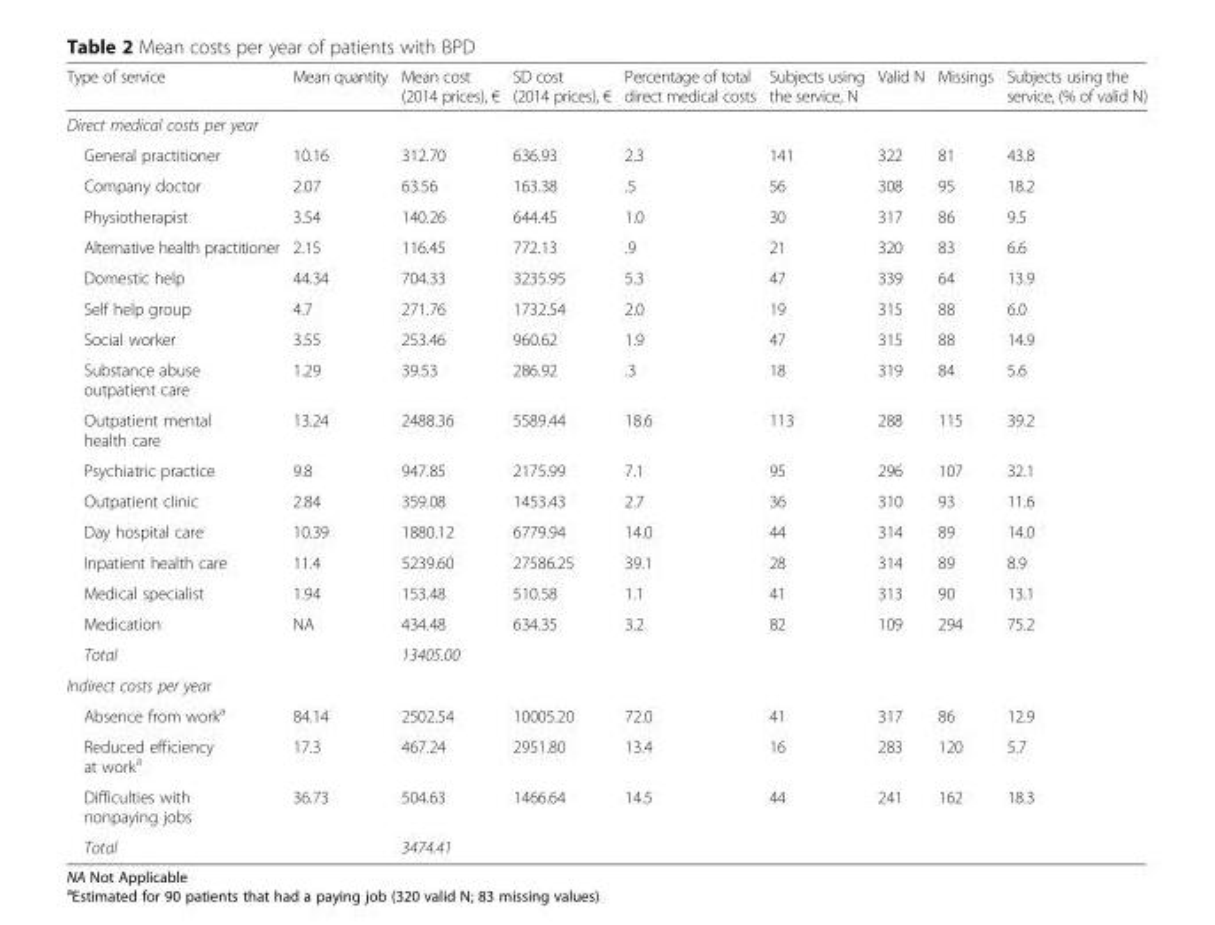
<table><thead><tr><td>Type of service</td><td>Mean quantity</td><td>Mean cost (2014 prices), €</td><td>SD cost (2014 prices), €</td><td>Percentage of total direct medical costs</td><td>Subjects using the service, N</td><td>Valid N</td><td>Missings</td><td>Subjects using the service, (% of valid N)</td></tr></thead><tbody><tr><td colspan="9">Direct medical costs per year</td></tr><tr><td>General practitioner</td><td>10.16</td><td>312.70</td><td>636.93</td><td>2.3</td><td>141</td><td>322</td><td>81</td><td>43.8</td></tr><tr><td>Company doctor</td><td>2.07</td><td>63.56</td><td>163.38</td><td>.5</td><td>56</td><td>308</td><td>95</td><td>18.2</td></tr><tr><td>Physiotherapist</td><td>3.54</td><td>140.26</td><td>644.45</td><td>1.0</td><td>30</td><td>317</td><td>86</td><td>9.5</td></tr><tr><td>Alternative health practitioner</td><td>2.15</td><td>116.45</td><td>772.13</td><td>.9</td><td>21</td><td>320</td><td>83</td><td>6.6</td></tr><tr><td>Domestic help</td><td>44.34</td><td>704.33</td><td>3235.95</td><td>5.3</td><td>47</td><td>339</td><td>64</td><td>13.9</td></tr><tr><td>Self help group</td><td>4.7</td><td>271.76</td><td>1732.54</td><td>2.0</td><td>19</td><td>315</td><td>88</td><td>6.0</td></tr><tr><td>Social worker</td><td>3.55</td><td>253.46</td><td>960.62</td><td>1.9</td><td>47</td><td>315</td><td>88</td><td>14.9</td></tr><tr><td>Substance abuse outpatient care</td><td>1.29</td><td>39.53</td><td>286.92</td><td>.3</td><td>18</td><td>319</td><td>84</td><td>5.6</td></tr><tr><td>Outpatient mental health care</td><td>13.24</td><td>2488.36</td><td>5589.44</td><td>18.6</td><td>113</td><td>288</td><td>115</td><td>39.2</td></tr><tr><td>Psychiatric practice</td><td>9.8</td><td>947.85</td><td>2175.99</td><td>7.1</td><td>95</td><td>296</td><td>107</td><td>32.1</td></tr><tr><td>Outpatient clinic</td><td>2.84</td><td>359.08</td><td>1453.43</td><td>2.7</td><td>36</td><td>310</td><td>93</td><td>11.6</td></tr><tr><td>Day hospital care</td><td>10.39</td><td>1880.12</td><td>6779.94</td><td>14.0</td><td>44</td><td>314</td><td>89</td><td>14.0</td></tr><tr><td>Inpatient health care</td><td>11.4</td><td>5239.60</td><td>27586.25</td><td>39.1</td><td>28</td><td>314</td><td>89</td><td>8.9</td></tr><tr><td>Medical specialist</td><td>1.94</td><td>153.48</td><td>510.58</td><td>1.1</td><td>41</td><td>313</td><td>90</td><td>13.1</td></tr><tr><td>Medication</td><td>NA</td><td>434.48</td><td>634.35</td><td>3.2</td><td>82</td><td>109</td><td>294</td><td>75.2</td></tr><tr><td>Total</td><td></td><td>13405.00</td><td></td><td></td><td></td><td></td><td></td><td></td></tr><tr><td colspan="9">Indirect costs per year</td></tr><tr><td>Absence from work<sup>a</sup></td><td>84.14</td><td>2502.54</td><td>10005.20</td><td>72.0</td><td>41</td><td>317</td><td>86</td><td>12.9</td></tr><tr><td>Reduced efficiency at work<sup>a</sup></td><td>17.3</td><td>467.24</td><td>2951.80</td><td>13.4</td><td>16</td><td>283</td><td>120</td><td>5.7</td></tr><tr><td>Difficulties with nonpaying jobs</td><td>36.73</td><td>504.63</td><td>1466.64</td><td>14.5</td><td>44</td><td>241</td><td>162</td><td>18.3</td></tr><tr><td>Total</td><td></td><td>3474.41</td><td></td><td></td><td></td><td></td><td></td><td></td></tr></tbody></table>